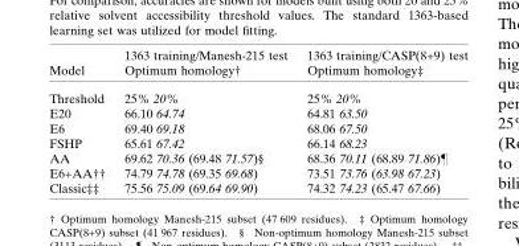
<table><thead><tr><td rowspan="2">Model</td><td rowspan="2">1363 training/Manesh-215 test Optimum homology†</td><td rowspan="2">1363 training/CASP(8+9) test Optimum homology‡</td></tr><tr></tr></thead><tbody><tr><td>Threshold</td><td>25% 20%</td><td>25% 20%</td></tr><tr><td>E20</td><td>66.10 64.74</td><td>64.81 63.50</td></tr><tr><td>E6</td><td>69.40 69.18</td><td>68.06 67.50</td></tr><tr><td>FSHP</td><td>65.61 67.42</td><td>66.14 68.23</td></tr><tr><td>AA</td><td>69.62 70.36 (69.48 71.57)§</td><td>68.36 70.11 (68.89 71.86)¶</td></tr><tr><td>E6+AA††</td><td>74.79 74.78 (69.35 69.68)</td><td>73.51 73.76 (63.98 67.23)</td></tr><tr><td>Classic‡‡</td><td>75.56 75.09 (69.64 69.90)</td><td>74.32 74.23 (65.47 67.66)</td></tr></tbody></table>